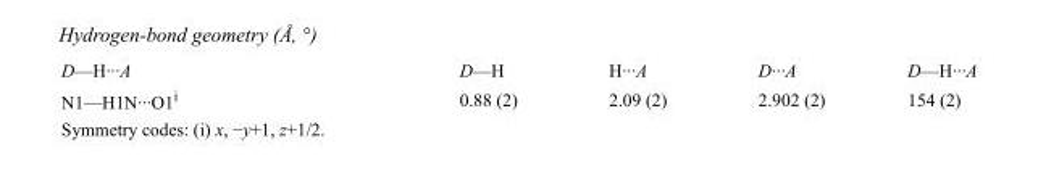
<table><tbody><tr><td>D—H···A</td><td>D—H</td><td>H···A</td><td>D···A</td><td>D—H···A</td></tr><tr><td>N1—H1N···O1<sup>i</sup></td><td>0.88 (2)</td><td>2.09 (2)</td><td>2.902 (2)</td><td>154 (2)</td></tr></tbody></table>